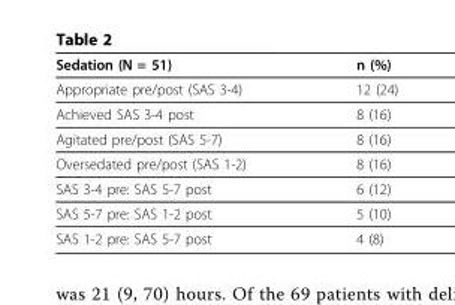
<table><thead><tr><td>Sedation (N = 51)</td><td>n (%)</td></tr></thead><tbody><tr><td>Appropriate pre/post (SAS 3-4)</td><td>12 (24)</td></tr><tr><td>Achieved SAS 3-4 post</td><td>8 (16)</td></tr><tr><td>Agitated pre/post (SAS 5-7)</td><td>8 (16)</td></tr><tr><td>Oversedated pre/post (SAS 1-2)</td><td>8 (16)</td></tr><tr><td>SAS 3-4 pre: SAS 5-7 post</td><td>6 (12)</td></tr><tr><td>SAS 5-7 pre: SAS 1-2 post</td><td>5 (10)</td></tr><tr><td>SAS 1-2 pre: SAS 5-7 post</td><td>4 (8)</td></tr></tbody></table>